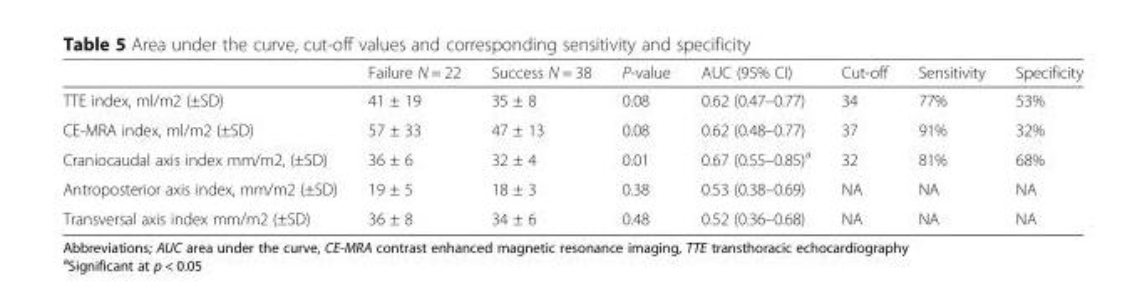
<table><thead><tr><td></td><td>Failure N = 22</td><td>Success N = 38</td><td>P-value</td><td>AUC (95% CI)</td><td>Cut-off</td><td>Sensitivity</td><td>Specificity</td></tr></thead><tbody><tr><td>TTE index, ml/m2 (±SD)</td><td>41 ± 19</td><td>35 ± 8</td><td>0.08</td><td>0.62 (0.47–0.77)</td><td>34</td><td>77%</td><td>53%</td></tr><tr><td>CE-MRA index, ml/m2 (±SD)</td><td>57 ± 33</td><td>47 ± 13</td><td>0.08</td><td>0.62 (0.48–0.77)</td><td>37</td><td>91%</td><td>32%</td></tr><tr><td>Craniocaudal axis index mm/m2, (±SD)</td><td>36 ± 6</td><td>32 ± 4</td><td>0.01</td><td>0.67 (0.55–0.85)<sup>a</sup></td><td>32</td><td>81%</td><td>68%</td></tr><tr><td>Antroposterior axis index, mm/m2 (±SD)</td><td>19 ± 5</td><td>18 ± 3</td><td>0.38</td><td>0.53 (0.38–0.69)</td><td>NA</td><td>NA</td><td>NA</td></tr><tr><td>Transversal axis index mm/m2 (±SD)</td><td>36 ± 8</td><td>34 ± 6</td><td>0.48</td><td>0.52 (0.36–0.68)</td><td>NA</td><td>NA</td><td>NA</td></tr></tbody></table>